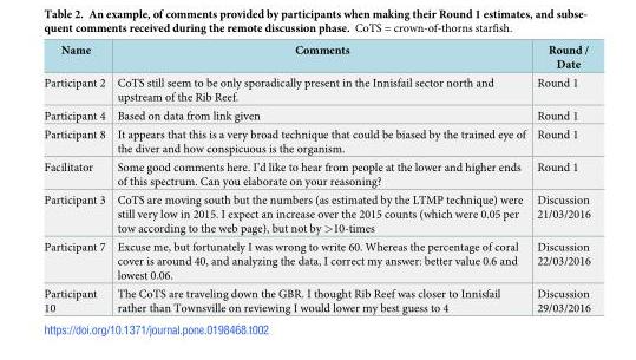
<table><thead><tr><td>Name</td><td>Comments</td><td>Round / Date</td></tr></thead><tbody><tr><td>Participant 2</td><td>CoTS still seem to be only sporadically present in the Innisfail sector north and upstream of the Rib Reef.</td><td>Round 1</td></tr><tr><td>Participant 4</td><td>Based on data from link given</td><td>Round 1</td></tr><tr><td>Participant 8</td><td>It appears that this is a very broad technique that could be biased by the trained eye of the diver and how conspicuous is the organism.</td><td>Round 1</td></tr><tr><td>Facilitator</td><td>Some good comments here. I’d like to hear from people at the lower and higher ends of this spectrum. Can you elaborate on your reasoning?</td><td>Round 1</td></tr><tr><td>Participant 3</td><td>CoTS are moving south but the numbers (as estimated by the LTMP technique) were still very low in 2015. I expect an increase over the 2015 counts (which were 0.05 per tow according to the web page), but not by &gt;10-times</td><td>Discussion 21/03/2016</td></tr><tr><td>Participant 7</td><td>Excuse me, but fortunately I was wrong to write 60. Whereas the percentage of coral cover is around 40, and analyzing the data, I correct my answer: better value 0.6 and lowest 0.06.</td><td>Discussion 22/03/2016</td></tr><tr><td>Participant 10</td><td>The CoTS are traveling down the GBR. I thought Rib Reef was closer to Innisfail rather than Townsville on reviewing I would lower my best guess to 4</td><td>Discussion 29/03/2016</td></tr></tbody></table>